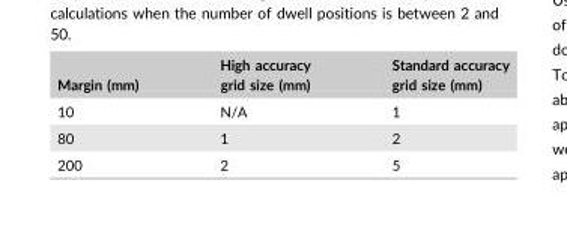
<table><thead><tr><td>Margin (mm)</td><td>High accuracy grid size (mm)</td><td>Standard accuracy grid size (mm)</td></tr></thead><tbody><tr><td>10</td><td>N/A</td><td>1</td></tr><tr><td>80</td><td>1</td><td>2</td></tr><tr><td>200</td><td>2</td><td>5</td></tr></tbody></table>